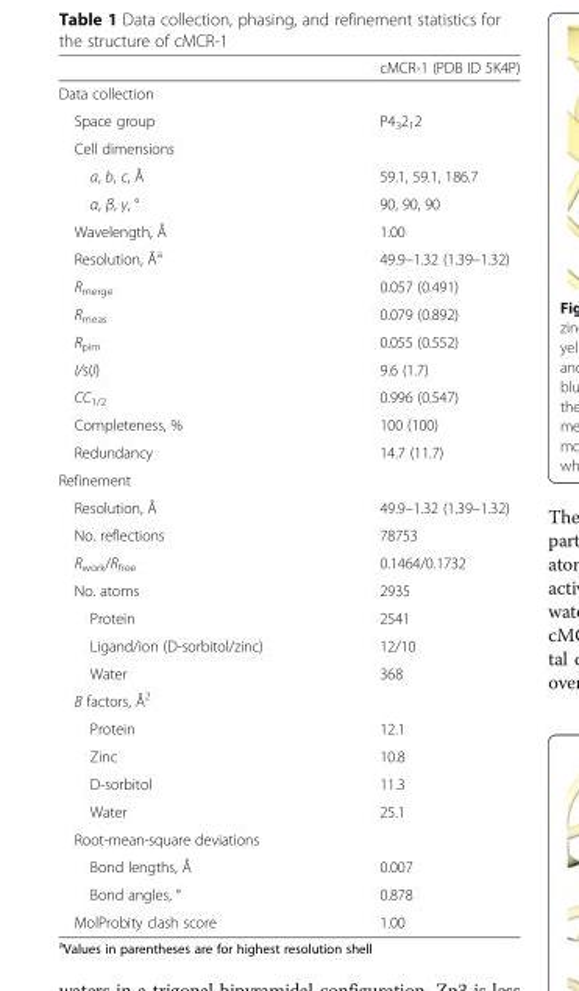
<table><thead><tr><td></td><td>cMCR-1 (PDB ID 5K4P)</td></tr></thead><tbody><tr><td colspan="2">Data collection</td></tr><tr><td>Space group</td><td>P4<sub>3</sub>2<sub>1</sub>2</td></tr><tr><td colspan="2">Cell dimensions</td></tr><tr><td>a, b, c, Å</td><td>59.1, 59.1, 186.7</td></tr><tr><td>α, β, γ, °</td><td>90, 90, 90</td></tr><tr><td>Wavelength, Å</td><td>1.00</td></tr><tr><td>Resolution, Å<sup>a</sup></td><td>49.9–1.32 (1.39–1.32)</td></tr><tr><td>R<sub>merge</sub></td><td>0.057 (0.491)</td></tr><tr><td>R<sub>meas</sub></td><td>0.079 (0.892)</td></tr><tr><td>R<sub>pim</sub></td><td>0.055 (0.552)</td></tr><tr><td>I/s(I)</td><td>9.6 (1.7)</td></tr><tr><td>CC<sub>1/2</sub></td><td>0.996 (0.547)</td></tr><tr><td>Completeness, %</td><td>100 (100)</td></tr><tr><td>Redundancy</td><td>14.7 (11.7)</td></tr><tr><td colspan="2">Refinement</td></tr><tr><td>Resolution, Å</td><td>49.9–1.32 (1.39–1.32)</td></tr><tr><td>No. reflections</td><td>78753</td></tr><tr><td>R<sub>work</sub>/R<sub>free</sub></td><td>0.1464/0.1732</td></tr><tr><td>No. atoms</td><td>2935</td></tr><tr><td>Protein</td><td>2541</td></tr><tr><td>Ligand/ion (D-sorbitol/zinc)</td><td>12/10</td></tr><tr><td>Water</td><td>368</td></tr><tr><td colspan="2">B factors, Å<sup>2</sup></td></tr><tr><td>Protein</td><td>12.1</td></tr><tr><td>Zinc</td><td>10.8</td></tr><tr><td>D-sorbitol</td><td>11.3</td></tr><tr><td>Water</td><td>25.1</td></tr><tr><td colspan="2">Root-mean-square deviations</td></tr><tr><td>Bond lengths, Å</td><td>0.007</td></tr><tr><td>Bond angles, °</td><td>0.878</td></tr><tr><td>MolProbity clash score</td><td>1.00</td></tr></tbody></table>